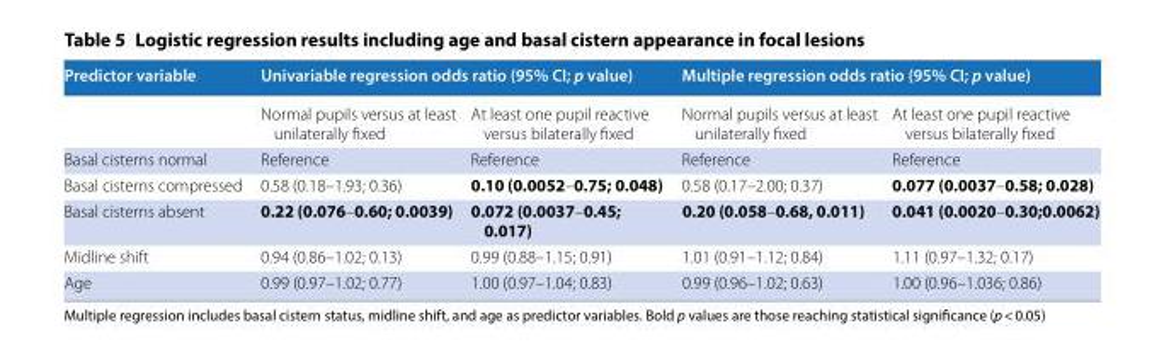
<table><thead><tr><td rowspan="2">Predictor variable</td><td colspan="2">Univariable regression odds ratio (95% CI; p value)</td><td colspan="2">Multiple regression odds ratio (95% CI; p value)</td></tr><tr><td>Normal pupils versus at least unilaterally fixed</td><td>At least one pupil reactive versus bilaterally fixed</td><td>Normal pupils versus at least unilaterally fixed</td><td>At least one pupil reactive versus bilaterally fixed</td></tr></thead><tbody><tr><td>Basal cisterns normal</td><td>Reference</td><td>Reference</td><td>Reference</td><td>Reference</td></tr><tr><td>Basal cisterns compressed</td><td>0.58 (0.18–1.93; 0.36)</td><td>0.10 (0.0052–0.75; 0.048)</td><td>0.58 (0.17–2.00; 0.37)</td><td>0.077 (0.0037–0.58; 0.028)</td></tr><tr><td>Basal cisterns absent</td><td>0.22 (0.076–0.60; 0.0039)</td><td>0.072 (0.0037–0.45; 0.017)</td><td>0.20 (0.058–0.68, 0.011)</td><td>0.041 (0.0020–0.30;0.0062)</td></tr><tr><td>Midline shift</td><td>0.94 (0.86–1.02; 0.13)</td><td>0.99 (0.88–1.15; 0.91)</td><td>1.01 (0.91–1.12; 0.84)</td><td>1.11 (0.97–1.32; 0.17)</td></tr><tr><td>Age</td><td>0.99 (0.97–1.02; 0.77)</td><td>1.00 (0.97–1.04; 0.83)</td><td>0.99 (0.96–1.02; 0.63)</td><td>1.00 (0.96–1.036; 0.86)</td></tr></tbody></table>